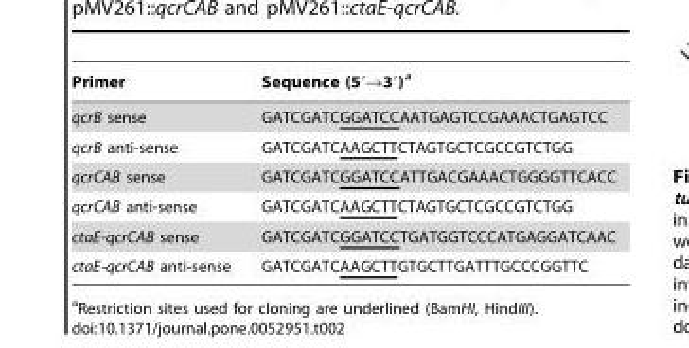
<table><thead><tr><td>Primer</td><td>Sequence (5′→3′)<sup>a</sup></td></tr></thead><tbody><tr><td>qcrB sense</td><td>GATCGATCGGATCCAATGAGTCCGAAACTGAGTCC</td></tr><tr><td>qcrB anti-sense</td><td>GATCGATCAAGCTTCTAGTGCTCGCCGTCTGG</td></tr><tr><td>qcrCAB sense</td><td>GATCGATCGGATCCATTGACGAAACTGGGGTTCACC</td></tr><tr><td>qcrCAB anti-sense</td><td>GATCGATCAAGCTTCTAGTGCTCGCCGTCTGG</td></tr><tr><td>ctaE-qcrCAB sense</td><td>GATCGATCGGATCCTGATGGTCCCATGAGGATCAAC</td></tr><tr><td>ctaE-qcrCAB anti-sense</td><td>GATCGATCAAGCTTGTGCTTGATTTGCCCGGTTC</td></tr></tbody></table>